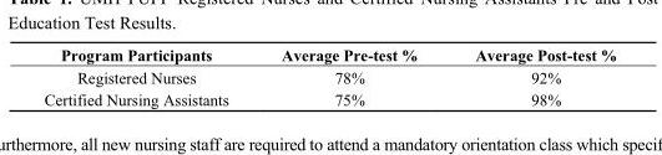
<table><thead><tr><td>Program Participants</td><td>Average Pre-test %</td><td>Average Post-test %</td></tr></thead><tbody><tr><td>Registered Nurses</td><td>78%</td><td>92%</td></tr><tr><td>Certified Nursing Assistants</td><td>75%</td><td>98%</td></tr></tbody></table>